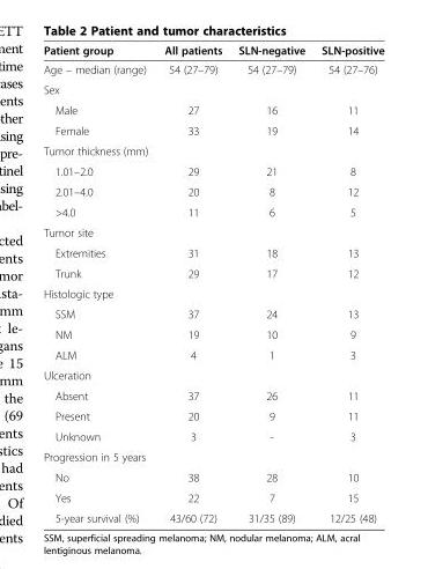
<table><thead><tr><td>Patient group</td><td>All patients</td><td>SLN-negative</td><td>SLN-positive</td></tr></thead><tbody><tr><td>Age – median (range)</td><td>54 (27–79)</td><td>54 (27–79)</td><td>54 (27–76)</td></tr><tr><td colspan="4">Sex</td></tr><tr><td>Male</td><td>27</td><td>16</td><td>11</td></tr><tr><td>Female</td><td>33</td><td>19</td><td>14</td></tr><tr><td colspan="4">Tumor thickness (mm)</td></tr><tr><td>1.01–2.0</td><td>29</td><td>21</td><td>8</td></tr><tr><td>2.01–4.0</td><td>20</td><td>8</td><td>12</td></tr><tr><td>&gt;4.0</td><td>11</td><td>6</td><td>5</td></tr><tr><td colspan="4">Tumor site</td></tr><tr><td>Extremities</td><td>31</td><td>18</td><td>13</td></tr><tr><td>Trunk</td><td>29</td><td>17</td><td>12</td></tr><tr><td colspan="4">Histologic type</td></tr><tr><td>SSM</td><td>37</td><td>24</td><td>13</td></tr><tr><td>NM</td><td>19</td><td>10</td><td>9</td></tr><tr><td>ALM</td><td>4</td><td>1</td><td>3</td></tr><tr><td colspan="4">Ulceration</td></tr><tr><td>Absent</td><td>37</td><td>26</td><td>11</td></tr><tr><td>Present</td><td>20</td><td>9</td><td>11</td></tr><tr><td>Unknown</td><td>3</td><td>-</td><td>3</td></tr><tr><td colspan="4">Progression in 5 years</td></tr><tr><td>No</td><td>38</td><td>28</td><td>10</td></tr><tr><td>Yes</td><td>22</td><td>7</td><td>15</td></tr><tr><td>5-year survival (%)</td><td>43/60 (72)</td><td>31/35 (89)</td><td>12/25 (48)</td></tr></tbody></table>